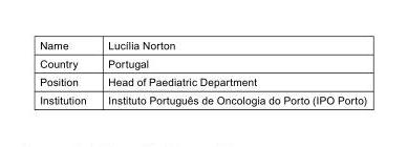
<table><tbody><tr><td>Name</td><td>Lucília Norton</td></tr><tr><td>Country</td><td>Portugal</td></tr><tr><td>Position</td><td>Head of Paediatric Department</td></tr><tr><td>Institution</td><td>Instituto Português de Oncologia do Porto (IPO Porto)</td></tr></tbody></table>